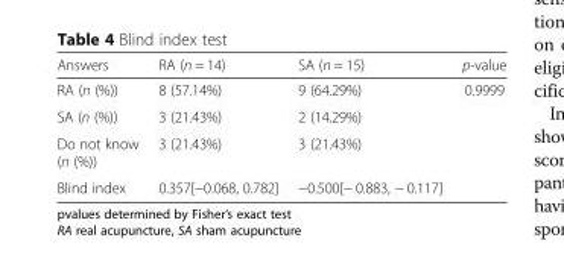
<table><thead><tr><td>Answers</td><td>RA (n = 14)</td><td>SA (n = 15)</td><td>p-value</td></tr></thead><tbody><tr><td>RA (n (%))</td><td>8 (57.14%)</td><td>9 (64.29%)</td><td rowspan="3">0.9999</td></tr><tr><td>SA (n (%))</td><td>3 (21.43%)</td><td>2 (14.29%)</td></tr><tr><td>Do not know (n (%))</td><td>3 (21.43%)</td><td>3 (21.43%)</td></tr><tr><td>Blind index</td><td>0.357[−0.068, 0.782]</td><td>−0.500[− 0.883, − 0.117]</td><td></td></tr></tbody></table>